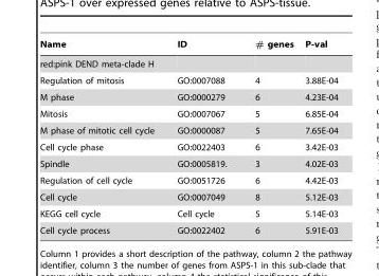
<table><thead><tr><td>Name</td><td>ID</td><td># genes</td><td>P-val</td></tr></thead><tbody><tr><td colspan="4">red:pink DEND meta-clade H</td></tr><tr><td>Regulation of mitosis</td><td>GO:0007088</td><td>4</td><td>3.88E-04</td></tr><tr><td>M phase</td><td>GO:0000279</td><td>6</td><td>4.23E-04</td></tr><tr><td>Mitosis</td><td>GO:0007067</td><td>5</td><td>6.85E-04</td></tr><tr><td>M phase of mitotic cell cycle</td><td>GO:0000087</td><td>5</td><td>7.65E-04</td></tr><tr><td>Cell cycle phase</td><td>GO:0022403</td><td>6</td><td>3.42E-03</td></tr><tr><td>Spindle</td><td>GO:0005819.</td><td>3</td><td>4.02E-03</td></tr><tr><td>Regulation of cell cycle</td><td>GO:0051726</td><td>6</td><td>4.42E-03</td></tr><tr><td>Cell cycle</td><td>GO:0007049</td><td>8</td><td>5.12E-03</td></tr><tr><td>KEGG cell cycle</td><td>Cell cycle</td><td>5</td><td>5.14E-03</td></tr><tr><td>Cell cycle process</td><td>GO:0022402</td><td>6</td><td>5.91E-03</td></tr></tbody></table>